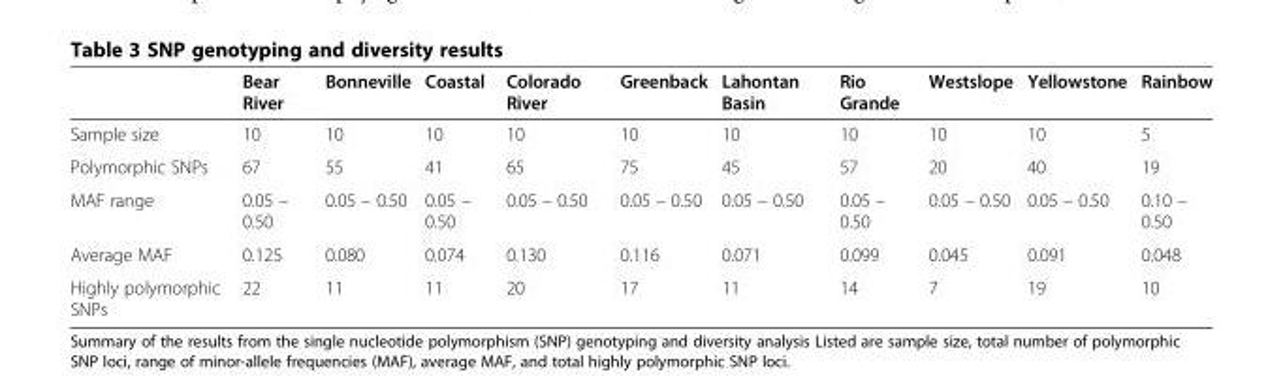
<table><thead><tr><td></td><td>Bear River</td><td>Bonneville</td><td>Coastal</td><td>Colorado River</td><td>Greenback</td><td>Lahontan Basin</td><td>Rio Grande</td><td>Westslope</td><td>Yellowstone</td><td>Rainbow</td></tr></thead><tbody><tr><td>Sample size</td><td>10</td><td>10</td><td>10</td><td>10</td><td>10</td><td>10</td><td>10</td><td>10</td><td>10</td><td>5</td></tr><tr><td>Polymorphic SNPs</td><td>67</td><td>55</td><td>41</td><td>65</td><td>75</td><td>45</td><td>57</td><td>20</td><td>40</td><td>19</td></tr><tr><td>MAF range</td><td>0.05 – 0.50</td><td>0.05 – 0.50</td><td>0.05 – 0.50</td><td>0.05 – 0.50</td><td>0.05 – 0.50</td><td>0.05 – 0.50</td><td>0.05 – 0.50</td><td>0.05 – 0.50</td><td>0.05 – 0.50</td><td>0.10 – 0.50</td></tr><tr><td>Average MAF</td><td>0.125</td><td>0.080</td><td>0.074</td><td>0.130</td><td>0.116</td><td>0.071</td><td>0.099</td><td>0.045</td><td>0.091</td><td>0.048</td></tr><tr><td>Highly polymorphic SNPs</td><td>22</td><td>11</td><td>11</td><td>20</td><td>17</td><td>11</td><td>14</td><td>7</td><td>19</td><td>10</td></tr></tbody></table>